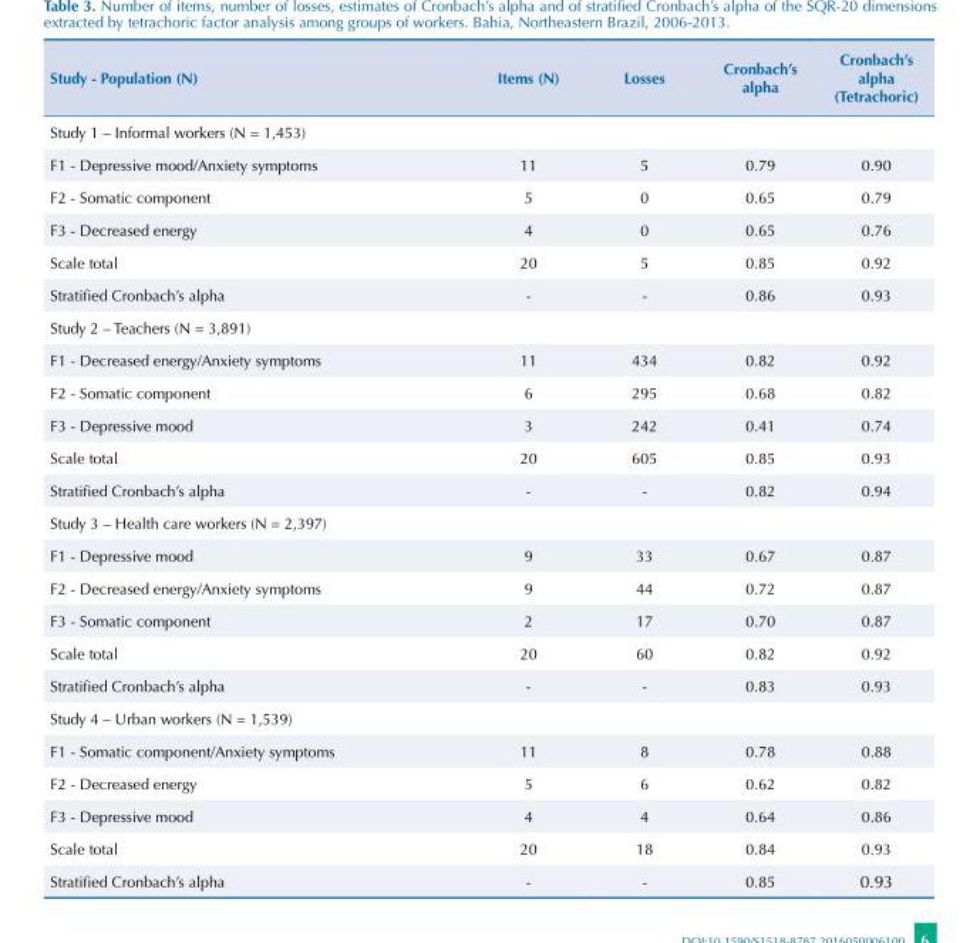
<table><thead><tr><td>Study - Population (N)</td><td>Items (N)</td><td>Losses</td><td>Cronbach’s alpha</td><td>Cronbach’s alpha (Tetrachoric)</td></tr></thead><tbody><tr><td colspan="5">Study 1 – Informal workers (N = 1,453)</td></tr><tr><td>F1 - Depressive mood/Anxiety symptoms</td><td>11</td><td>5</td><td>0.79</td><td>0.90</td></tr><tr><td>F2 - Somatic component</td><td>5</td><td>0</td><td>0.65</td><td>0.79</td></tr><tr><td>F3 - Decreased energy</td><td>4</td><td>0</td><td>0.65</td><td>0.76</td></tr><tr><td>Scale total</td><td>20</td><td>5</td><td>0.85</td><td>0.92</td></tr><tr><td>Stratified Cronbach’s alpha</td><td>-</td><td>-</td><td>0.86</td><td>0.93</td></tr><tr><td colspan="5">Study 2 – Teachers (N = 3,891)</td></tr><tr><td>F1 - Decreased energy/Anxiety symptoms</td><td>11</td><td>434</td><td>0.82</td><td>0.92</td></tr><tr><td>F2 - Somatic component</td><td>6</td><td>295</td><td>0.68</td><td>0.82</td></tr><tr><td>F3 - Depressive mood</td><td>3</td><td>242</td><td>0.41</td><td>0.74</td></tr><tr><td>Scale total</td><td>20</td><td>605</td><td>0.85</td><td>0.93</td></tr><tr><td>Stratified Cronbach’s alpha</td><td>-</td><td>-</td><td>0.82</td><td>0.94</td></tr><tr><td colspan="5">Study 3 – Health care workers (N = 2,397)</td></tr><tr><td>F1 - Depressive mood</td><td>9</td><td>33</td><td>0.67</td><td>0.87</td></tr><tr><td>F2 - Decreased energy/Anxiety symptoms</td><td>9</td><td>44</td><td>0.72</td><td>0.87</td></tr><tr><td>F3 - Somatic component</td><td>2</td><td>17</td><td>0.70</td><td>0.87</td></tr><tr><td>Scale total</td><td>20</td><td>60</td><td>0.82</td><td>0.92</td></tr><tr><td>Stratified Cronbach’s alpha</td><td>-</td><td>-</td><td>0.83</td><td>0.93</td></tr><tr><td colspan="5">Study 4 – Urban workers (N = 1,539)</td></tr><tr><td>F1 - Somatic component/Anxiety symptoms</td><td>11</td><td>8</td><td>0.78</td><td>0.88</td></tr><tr><td>F2 - Decreased energy</td><td>5</td><td>6</td><td>0.62</td><td>0.82</td></tr><tr><td>F3 - Depressive mood</td><td>4</td><td>4</td><td>0.64</td><td>0.86</td></tr><tr><td>Scale total</td><td>20</td><td>18</td><td>0.84</td><td>0.93</td></tr><tr><td>Stratified Cronbach’s alpha</td><td>-</td><td>-</td><td>0.85</td><td>0.93</td></tr></tbody></table>